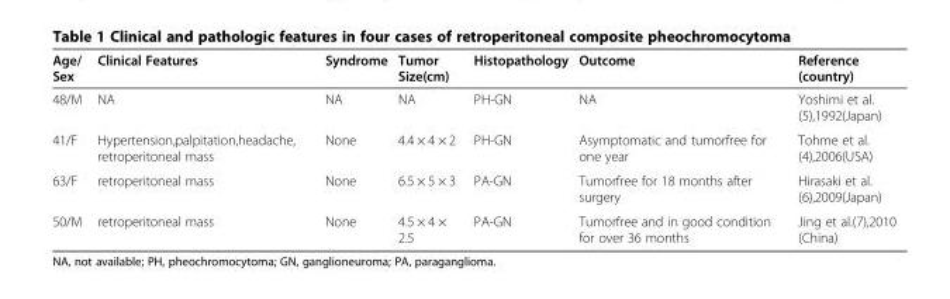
<table><thead><tr><td>Age/ Sex</td><td>Clinical Features</td><td>Syndrome</td><td>Tumor Size(cm)</td><td>Histopathology</td><td>Outcome</td><td>Reference (country)</td></tr></thead><tbody><tr><td>48/M</td><td>NA</td><td>NA</td><td>NA</td><td>PH-GN</td><td>NA</td><td>Yoshimi et al. (5),1992(Japan)</td></tr><tr><td>41/F</td><td>Hypertension,palpitation,headache, retroperitoneal mass</td><td>None</td><td>4.4 × 4 × 2</td><td>PH-GN</td><td>Asymptomatic and tumorfree for one year</td><td>Tohme et al. (4),2006(USA)</td></tr><tr><td>63/F</td><td>retroperitoneal mass</td><td>None</td><td>6.5 × 5 × 3</td><td>PA-GN</td><td>Tumorfree for 18 months after surgery</td><td>Hirasaki et al. (6),2009(Japan)</td></tr><tr><td>50/M</td><td>retroperitoneal mass</td><td>None</td><td>4.5 × 4 × 2.5</td><td>PA-GN</td><td>Tumorfree and in good condition for over 36 months</td><td>Jing et al.(7),2010 (China)</td></tr></tbody></table>